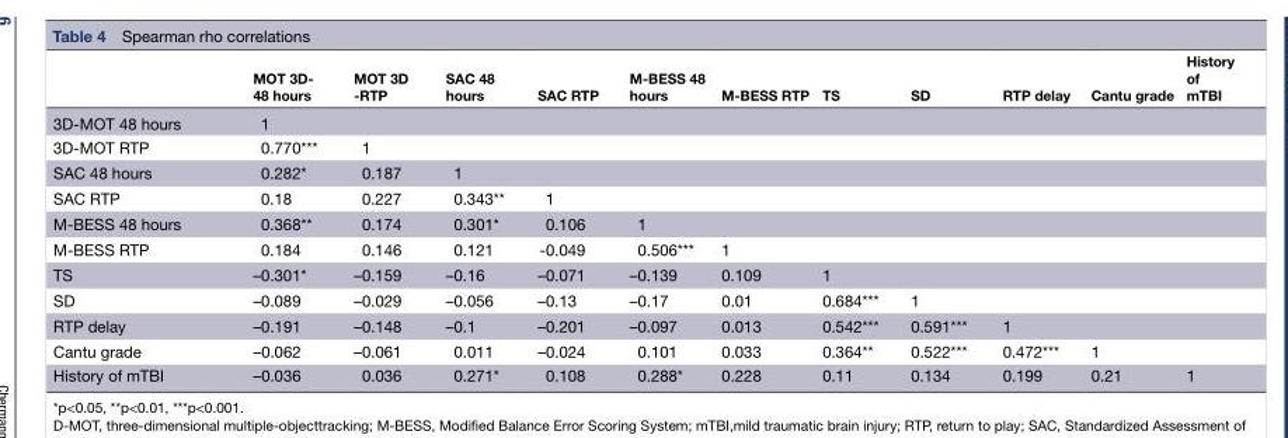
<table><thead><tr><td></td><td>MOT 3D- 48 hours</td><td>MOT 3D -RTP</td><td>SAC 48 hours</td><td>SAC RTP</td><td>M-BESS 48 hours</td><td>M-BESS RTP</td><td>TS</td><td>SD</td><td>RTP delay</td><td>Cantu grade</td><td>History of mTBI</td></tr></thead><tbody><tr><td>3D-MOT 48 hours</td><td>1</td><td></td><td></td><td></td><td></td><td></td><td></td><td></td><td></td><td></td><td></td></tr><tr><td>3D-MOT RTP</td><td>0.770***</td><td>1</td><td></td><td></td><td></td><td></td><td></td><td></td><td></td><td></td><td></td></tr><tr><td>SAC 48 hours</td><td>0.282*</td><td>0.187</td><td>1</td><td></td><td></td><td></td><td></td><td></td><td></td><td></td><td></td></tr><tr><td>SAC RTP</td><td>0.18</td><td>0.227</td><td>0.343**</td><td>1</td><td></td><td></td><td></td><td></td><td></td><td></td><td></td></tr><tr><td>M-BESS 48 hours</td><td>0.368**</td><td>0.174</td><td>0.301*</td><td>0.106</td><td>1</td><td></td><td></td><td></td><td></td><td></td><td></td></tr><tr><td>M-BESS RTP</td><td>0.184</td><td>0.146</td><td>0.121</td><td>-0.049</td><td>0.506***</td><td>1</td><td></td><td></td><td></td><td></td><td></td></tr><tr><td>TS</td><td>–0.301*</td><td>–0.159</td><td>–0.16</td><td>–0.071</td><td>–0.139</td><td>0.109</td><td>1</td><td></td><td></td><td></td><td></td></tr><tr><td>SD</td><td>–0.089</td><td>–0.029</td><td>–0.056</td><td>–0.13</td><td>–0.17</td><td>0.01</td><td>0.684***</td><td>1</td><td></td><td></td><td></td></tr><tr><td>RTP delay</td><td>–0.191</td><td>–0.148</td><td>–0.1</td><td>–0.201</td><td>–0.097</td><td>0.013</td><td>0.542***</td><td>0.591***</td><td>1</td><td></td><td></td></tr><tr><td>Cantu grade</td><td>–0.062</td><td>–0.061</td><td>0.011</td><td>–0.024</td><td>0.101</td><td>0.033</td><td>0.364**</td><td>0.522***</td><td>0.472***</td><td>1</td><td></td></tr><tr><td>History of mTBI</td><td>–0.036</td><td>0.036</td><td>0.271*</td><td>0.108</td><td>0.288*</td><td>0.228</td><td>0.11</td><td>0.134</td><td>0.199</td><td>0.21</td><td>1</td></tr></tbody></table>